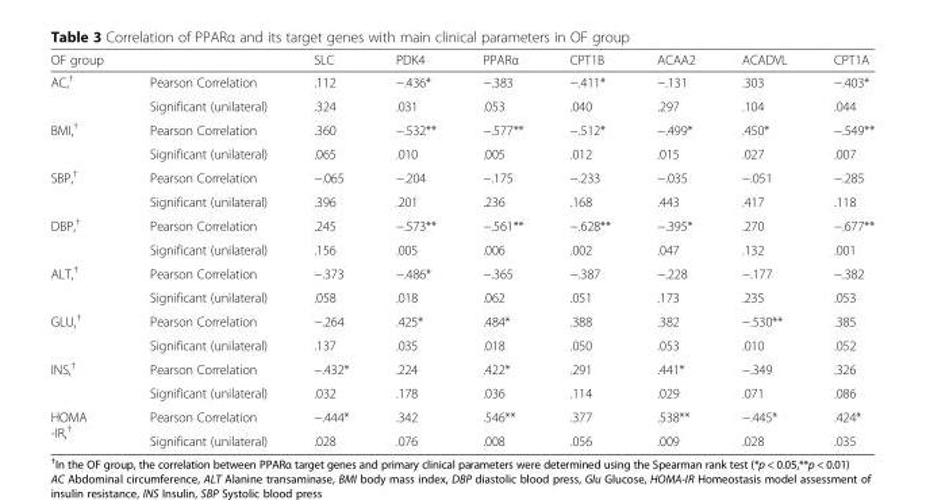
<table><thead><tr><td>OF group</td><td></td><td>SLC</td><td>PDK4</td><td>PPARα</td><td>CPT1B</td><td>ACAA2</td><td>ACADVL</td><td>CPT1A</td></tr></thead><tbody><tr><td rowspan="2">AC,<sup>†</sup></td><td>Pearson Correlation</td><td>.112</td><td>−.436*</td><td>−.383</td><td>−.411*</td><td>−.131</td><td>.303</td><td>−.403*</td></tr><tr><td>Significant (unilateral)</td><td>.324</td><td>.031</td><td>.053</td><td>.040</td><td>.297</td><td>.104</td><td>.044</td></tr><tr><td rowspan="2">BMI,<sup>†</sup></td><td>Pearson Correlation</td><td>.360</td><td>−.532**</td><td>−.577**</td><td>−.512*</td><td>−.499*</td><td>.450*</td><td>−.549**</td></tr><tr><td>Significant (unilateral)</td><td>.065</td><td>.010</td><td>.005</td><td>.012</td><td>.015</td><td>.027</td><td>.007</td></tr><tr><td rowspan="2">SBP,<sup>†</sup></td><td>Pearson Correlation</td><td>−.065</td><td>−.204</td><td>−.175</td><td>−.233</td><td>−.035</td><td>−.051</td><td>−.285</td></tr><tr><td>Significant (unilateral)</td><td>.396</td><td>.201</td><td>.236</td><td>.168</td><td>.443</td><td>.417</td><td>.118</td></tr><tr><td rowspan="2">DBP,<sup>†</sup></td><td>Pearson Correlation</td><td>.245</td><td>−.573**</td><td>−.561**</td><td>−.628**</td><td>−.395*</td><td>.270</td><td>−.677**</td></tr><tr><td>Significant (unilateral)</td><td>.156</td><td>.005</td><td>.006</td><td>.002</td><td>.047</td><td>.132</td><td>.001</td></tr><tr><td rowspan="2">ALT,<sup>†</sup></td><td>Pearson Correlation</td><td>−.373</td><td>−.486*</td><td>−.365</td><td>−.387</td><td>−.228</td><td>−.177</td><td>−.382</td></tr><tr><td>Significant (unilateral)</td><td>.058</td><td>.018</td><td>.062</td><td>.051</td><td>.173</td><td>.235</td><td>.053</td></tr><tr><td rowspan="2">GLU,<sup>†</sup></td><td>Pearson Correlation</td><td>−.264</td><td>.425*</td><td>.484*</td><td>.388</td><td>.382</td><td>−.530**</td><td>.385</td></tr><tr><td>Significant (unilateral)</td><td>.137</td><td>.035</td><td>.018</td><td>.050</td><td>.053</td><td>.010</td><td>.052</td></tr><tr><td rowspan="2">INS,<sup>†</sup></td><td>Pearson Correlation</td><td>−.432*</td><td>.224</td><td>.422*</td><td>.291</td><td>.441*</td><td>−.349</td><td>.326</td></tr><tr><td>Significant (unilateral)</td><td>.032</td><td>.178</td><td>.036</td><td>.114</td><td>.029</td><td>.071</td><td>.086</td></tr><tr><td rowspan="2">HOMA -IR,<sup>†</sup></td><td>Pearson Correlation</td><td>−.444*</td><td>.342</td><td>.546**</td><td>.377</td><td>.538**</td><td>−.445*</td><td>.424*</td></tr><tr><td>Significant (unilateral)</td><td>.028</td><td>.076</td><td>.008</td><td>.056</td><td>.009</td><td>.028</td><td>.035</td></tr></tbody></table>